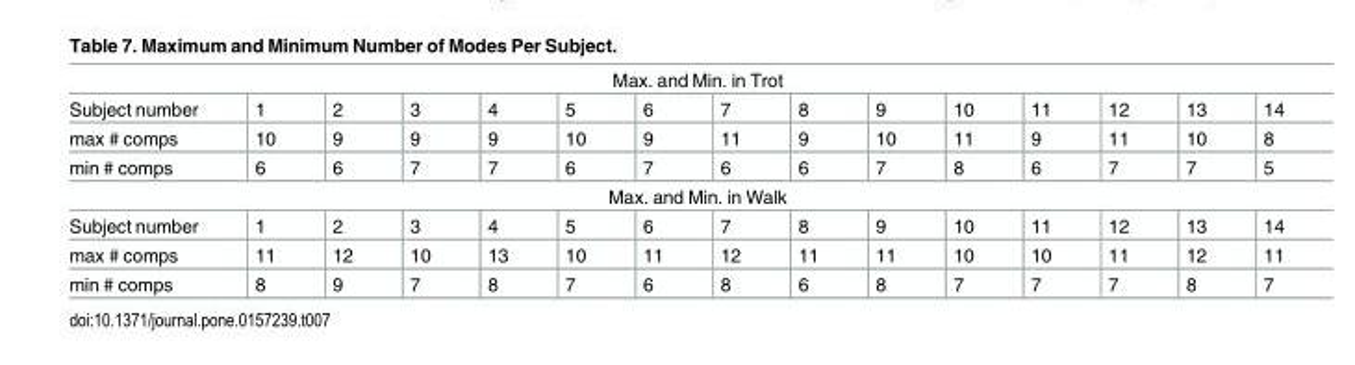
<table><tbody><tr><td colspan="15">Max. and Min. in Trot</td></tr><tr><td>Subject number</td><td>1</td><td>2</td><td>3</td><td>4</td><td>5</td><td>6</td><td>7</td><td>8</td><td>9</td><td>10</td><td>11</td><td>12</td><td>13</td><td>14</td></tr><tr><td>max # comps</td><td>10</td><td>9</td><td>9</td><td>9</td><td>10</td><td>9</td><td>11</td><td>9</td><td>10</td><td>11</td><td>9</td><td>11</td><td>10</td><td>8</td></tr><tr><td>min # comps</td><td>6</td><td>6</td><td>7</td><td>7</td><td>6</td><td>7</td><td>6</td><td>6</td><td>7</td><td>8</td><td>6</td><td>7</td><td>7</td><td>5</td></tr><tr><td colspan="15">Max. and Min. in Walk</td></tr><tr><td>Subject number</td><td>1</td><td>2</td><td>3</td><td>4</td><td>5</td><td>6</td><td>7</td><td>8</td><td>9</td><td>10</td><td>11</td><td>12</td><td>13</td><td>14</td></tr><tr><td>max # comps</td><td>11</td><td>12</td><td>10</td><td>13</td><td>10</td><td>11</td><td>12</td><td>11</td><td>11</td><td>10</td><td>10</td><td>11</td><td>12</td><td>11</td></tr><tr><td>min # comps</td><td>8</td><td>9</td><td>7</td><td>8</td><td>7</td><td>6</td><td>8</td><td>6</td><td>8</td><td>7</td><td>7</td><td>7</td><td>8</td><td>7</td></tr></tbody></table>